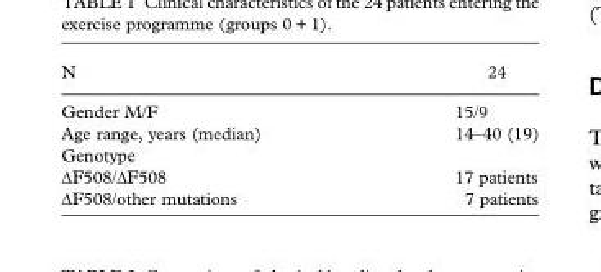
<table><thead><tr><td>N</td><td>24</td></tr></thead><tbody><tr><td>Gender M/F</td><td>15/9</td></tr><tr><td>Age range, years (median)</td><td>14–40 (19)</td></tr><tr><td colspan="2">Genotype</td></tr><tr><td>ΔF508/ΔF508</td><td>17 patients</td></tr><tr><td>ΔF508/other mutations</td><td>7 patients</td></tr></tbody></table>